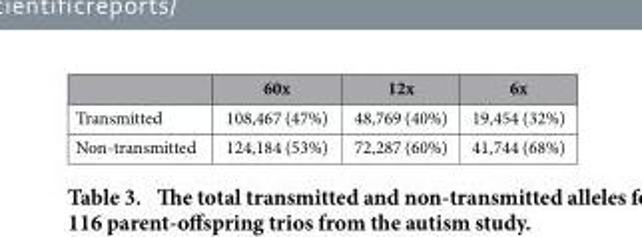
<table><thead><tr><td></td><td>60x</td><td>12x</td><td>6x</td></tr></thead><tbody><tr><td>Transmitted</td><td>108,467 (47%)</td><td>48,769 (40%)</td><td>19,454 (32%)</td></tr><tr><td>Non-transmitted</td><td>124,184 (53%)</td><td>72,287 (60%)</td><td>41,744 (68%)</td></tr></tbody></table>